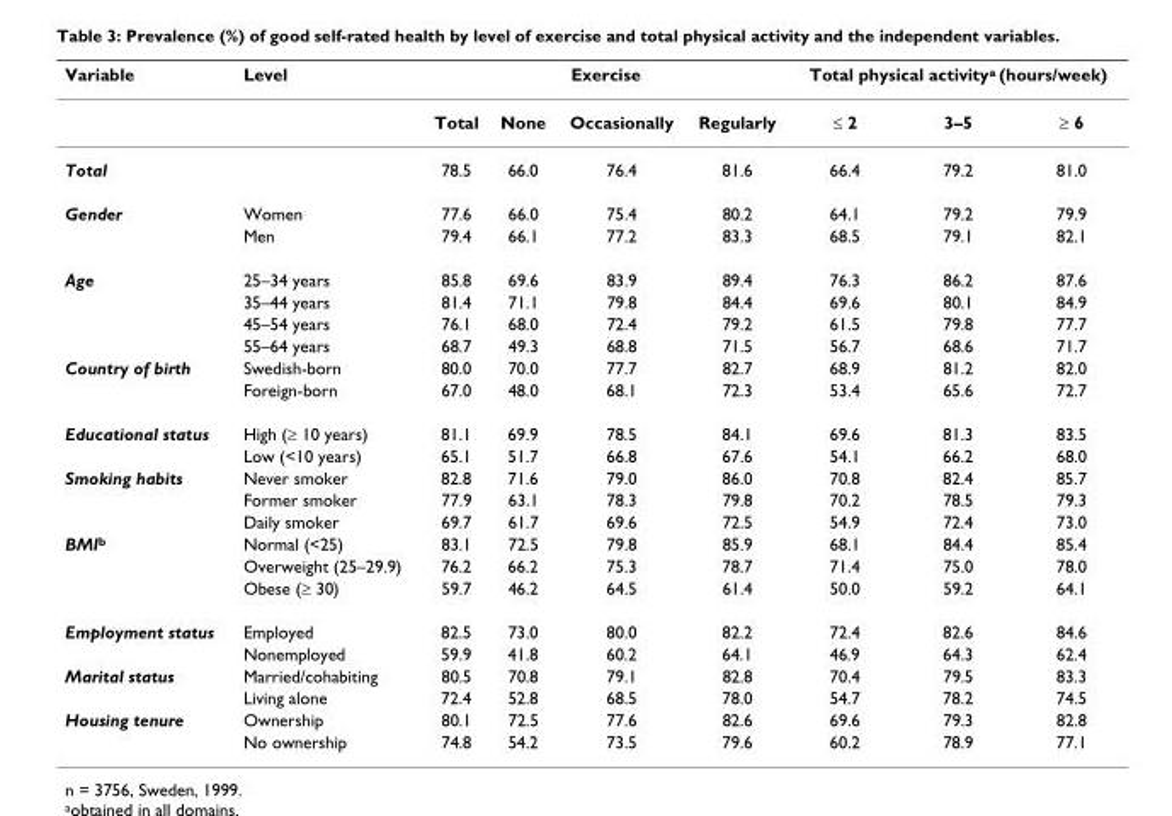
<table><thead><tr><td rowspan="2">Variable</td><td rowspan="2">Level</td><td colspan="4">Exercise</td><td colspan="3">Total physical activitya (hours/week)</td></tr><tr><td>Total</td><td>None</td><td>Occasionally</td><td>Regularly</td><td>≤ 2</td><td>3–5</td><td>≥ 6</td></tr></thead><tbody><tr><td>Total</td><td></td><td>78.5</td><td>66.0</td><td>76.4</td><td>81.6</td><td>66.4</td><td>79.2</td><td>81.0</td></tr><tr><td rowspan="2">Gender</td><td>Women</td><td>77.6</td><td>66.0</td><td>75.4</td><td>80.2</td><td>64.1</td><td>79.2</td><td>79.9</td></tr><tr><td>Men</td><td>79.4</td><td>66.1</td><td>77.2</td><td>83.3</td><td>68.5</td><td>79.1</td><td>82.1</td></tr><tr><td rowspan="4">Age</td><td>25–34 years</td><td>85.8</td><td>69.6</td><td>83.9</td><td>89.4</td><td>76.3</td><td>86.2</td><td>87.6</td></tr><tr><td>35–44 years</td><td>81.4</td><td>71.1</td><td>79.8</td><td>84.4</td><td>69.6</td><td>80.1</td><td>84.9</td></tr><tr><td>45–54 years</td><td>76.1</td><td>68.0</td><td>72.4</td><td>79.2</td><td>61.5</td><td>79.8</td><td>77.7</td></tr><tr><td>55–64 years</td><td>68.7</td><td>49.3</td><td>68.8</td><td>71.5</td><td>56.7</td><td>68.6</td><td>71.7</td></tr><tr><td rowspan="2">Country of birth</td><td>Swedish-born</td><td>80.0</td><td>70.0</td><td>77.7</td><td>82.7</td><td>68.9</td><td>81.2</td><td>82.0</td></tr><tr><td>Foreign-born</td><td>67.0</td><td>48.0</td><td>68.1</td><td>72.3</td><td>53.4</td><td>65.6</td><td>72.7</td></tr><tr><td rowspan="2">Educational status</td><td>High (≥ 10 years)</td><td>81.1</td><td>69.9</td><td>78.5</td><td>84.1</td><td>69.6</td><td>81.3</td><td>83.5</td></tr><tr><td>Low (&lt;10 years)</td><td>65.1</td><td>51.7</td><td>66.8</td><td>67.6</td><td>54.1</td><td>66.2</td><td>68.0</td></tr><tr><td rowspan="3">Smoking habits</td><td>Never smoker</td><td>82.8</td><td>71.6</td><td>79.0</td><td>86.0</td><td>70.8</td><td>82.4</td><td>85.7</td></tr><tr><td>Former smoker</td><td>77.9</td><td>63.1</td><td>78.3</td><td>79.8</td><td>70.2</td><td>78.5</td><td>79.3</td></tr><tr><td>Daily smoker</td><td>69.7</td><td>61.7</td><td>69.6</td><td>72.5</td><td>54.9</td><td>72.4</td><td>73.0</td></tr><tr><td rowspan="3">BMI<sup>b</sup></td><td>Normal (&lt;25)</td><td>83.1</td><td>72.5</td><td>79.8</td><td>85.9</td><td>68.1</td><td>84.4</td><td>85.4</td></tr><tr><td>Overweight (25–29.9)</td><td>76.2</td><td>66.2</td><td>75.3</td><td>78.7</td><td>71.4</td><td>75.0</td><td>78.0</td></tr><tr><td>Obese (≥ 30)</td><td>59.7</td><td>46.2</td><td>64.5</td><td>61.4</td><td>50.0</td><td>59.2</td><td>64.1</td></tr><tr><td rowspan="2">Employment status</td><td>Employed</td><td>82.5</td><td>73.0</td><td>80.0</td><td>82.2</td><td>72.4</td><td>82.6</td><td>84.6</td></tr><tr><td>Nonemployed</td><td>59.9</td><td>41.8</td><td>60.2</td><td>64.1</td><td>46.9</td><td>64.3</td><td>62.4</td></tr><tr><td rowspan="2">Marital status</td><td>Married/cohabiting</td><td>80.5</td><td>70.8</td><td>79.1</td><td>82.8</td><td>70.4</td><td>79.5</td><td>83.3</td></tr><tr><td>Living alone</td><td>72.4</td><td>52.8</td><td>68.5</td><td>78.0</td><td>54.7</td><td>78.2</td><td>74.5</td></tr><tr><td rowspan="2">Housing tenure</td><td>Ownership</td><td>80.1</td><td>72.5</td><td>77.6</td><td>82.6</td><td>69.6</td><td>79.3</td><td>82.8</td></tr><tr><td>No ownership</td><td>74.8</td><td>54.2</td><td>73.5</td><td>79.6</td><td>60.2</td><td>78.9</td><td>77.1</td></tr></tbody></table>